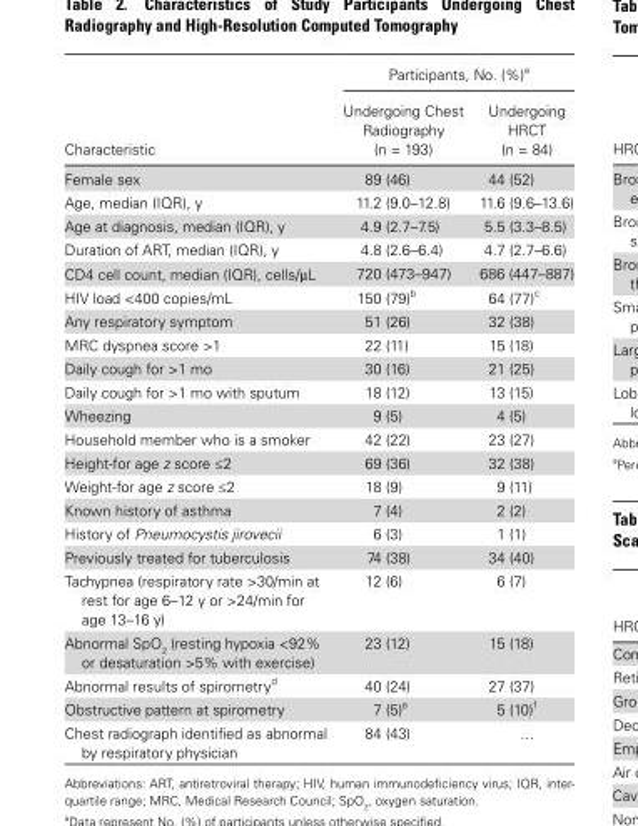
<table><thead><tr><td rowspan="2">Characteristic</td><td colspan="2">Participants, No. (%)<sup>a</sup></td></tr><tr><td>Undergoing Chest Radiography (n = 193)</td><td>Undergoing HRCT (n = 84)</td></tr></thead><tbody><tr><td>Female sex</td><td>89 (46)</td><td>44 (52)</td></tr><tr><td>Age, median (IQR), y</td><td>11.2 (9.0–12.8)</td><td>11.6 (9.6–13.6)</td></tr><tr><td>Age at diagnosis, median (IQR), y</td><td>4.9 (2.7–7.5)</td><td>5.5 (3.3–8.5)</td></tr><tr><td>Duration of ART, median (IQR), y</td><td>4.8 (2.6–6.4)</td><td>4.7 (2.7–6.6)</td></tr><tr><td>CD4 cell count, median (IQR), cells/µL</td><td>720 (473–947)</td><td>686 (447–887)</td></tr><tr><td>HIV load &lt;400 copies/mL</td><td>150 (79)<sup>b</sup></td><td>64 (77)<sup>c</sup></td></tr><tr><td>Any respiratory symptom</td><td>51 (26)</td><td>32 (38)</td></tr><tr><td>MRC dyspnea score &gt;1</td><td>22 (11)</td><td>15 (18)</td></tr><tr><td>Daily cough for &gt;1 mo</td><td>30 (16)</td><td>21 (25)</td></tr><tr><td>Daily cough for &gt;1 mo with sputum</td><td>18 (12)</td><td>13 (15)</td></tr><tr><td>Wheezing</td><td>9 (5)</td><td>4 (5)</td></tr><tr><td>Household member who is a smoker</td><td>42 (22)</td><td>23 (27)</td></tr><tr><td>Height-for age z score ≤2</td><td>69 (36)</td><td>32 (38)</td></tr><tr><td>Weight-for age z score ≤2</td><td>18 (9)</td><td>9 (11)</td></tr><tr><td>Known history of asthma</td><td>7 (4)</td><td>2 (2)</td></tr><tr><td>History of Pneumocystis jirovecii</td><td>6 (3)</td><td>1 (1)</td></tr><tr><td>Previously treated for tuberculosis</td><td>74 (38)</td><td>34 (40)</td></tr><tr><td>Tachypnea (respiratory rate &gt;30/min at rest for age 6–12 y or &gt;24/min for age 13–16 y)</td><td>12 (6)</td><td>6 (7)</td></tr><tr><td>Abnormal SpO<sub>2</sub> (resting hypoxia &lt;92% or desaturation &gt;5% with exercise)</td><td>23 (12)</td><td>15 (18)</td></tr><tr><td>Abnormal results of spirometry<sup>d</sup></td><td>40 (24)</td><td>27 (37)</td></tr><tr><td>Obstructive pattern at spirometry</td><td>7 (5)<sup>e</sup></td><td>5 (10)<sup>f</sup></td></tr><tr><td>Chest radiograph identified as abnormal by respiratory physician</td><td>84 (43)</td><td>…</td></tr></tbody></table>